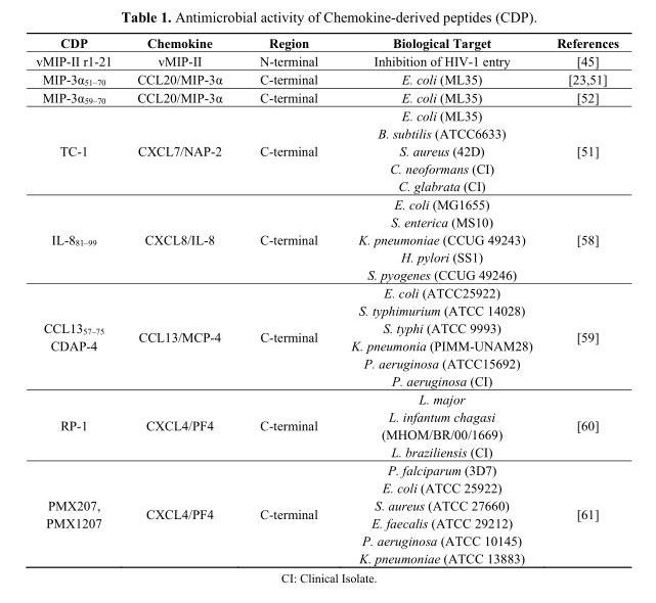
<table><thead><tr><td>CDP</td><td>Chemokine</td><td>Region</td><td>Biological Target</td><td>References</td></tr></thead><tbody><tr><td>vMIP-II r1-21</td><td>vMIP-II</td><td>N-terminal</td><td>Inhibition of HIV-1 entry</td><td>[45]</td></tr><tr><td>MIP-3α<sub>51–70</sub></td><td>CCL20/MIP-3α</td><td>C-terminal</td><td>E. coli (ML35)</td><td>[23,51]</td></tr><tr><td>MIP-3α<sub>59–70</sub></td><td>CCL20/MIP-3α</td><td>C-terminal</td><td>E. coli (ML35)</td><td>[52]</td></tr><tr><td>TC-1</td><td>CXCL7/NAP-2</td><td>C-terminal</td><td>E. coli (ML35) B. subtilis (ATCC6633) S. aureus (42D) C. neoformans (CI) C. glabrata (CI)</td><td>[51]</td></tr><tr><td>IL-8<sub>81–99</sub></td><td>CXCL8/IL-8</td><td>C-terminal</td><td>E. coli (MG1655) S. enterica (MS10) K. pneumoniae (CCUG 49243) H. pylori (SS1) S. pyogenes (CCUG 49246)</td><td>[58]</td></tr><tr><td>CCL13<sub>57–75</sub> CDAP-4</td><td>CCL13/MCP-4</td><td>C-terminal</td><td>E. coli (ATCC25922) S. typhimurium (ATCC 14028) S. typhi (ATCC 9993) K. pneumonia (PIMM-UNAM28) P. aeruginosa (ATCC15692) P. aeruginosa (CI)</td><td>[59]</td></tr><tr><td>RP-1</td><td>CXCL4/PF4</td><td>C-terminal</td><td>L. major L. infantum chagasi (MHOM/BR/00/1669) L. braziliensis (CI)</td><td>[60]</td></tr><tr><td>PMX207, PMX1207</td><td>CXCL4/PF4</td><td>C-terminal</td><td>P. falciparum (3D7) E. coli (ATCC 25922) S. aureus (ATCC 27660) E. faecalis (ATCC 29212) P. aeruginosa (ATCC 10145) K. pneumoniae (ATCC 13883)</td><td>[61]</td></tr></tbody></table>